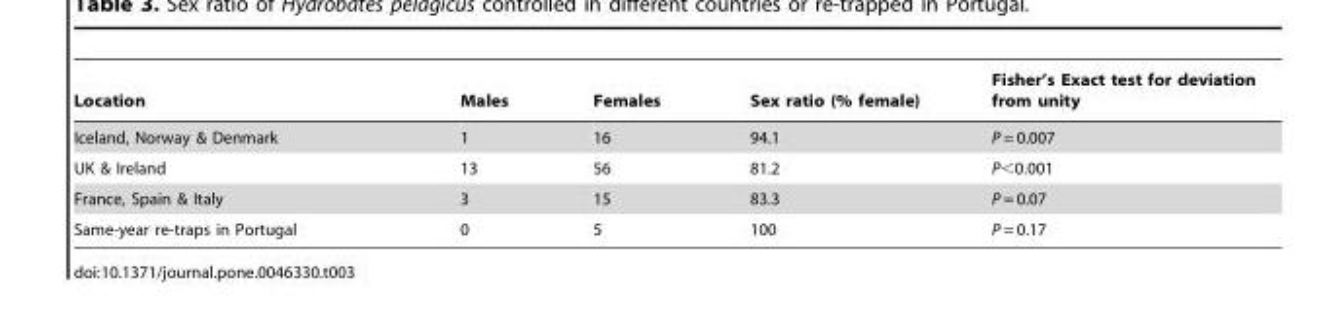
<table><thead><tr><td>Location</td><td>Males</td><td>Females</td><td>Sex ratio (% female)</td><td>Fisher’s Exact test for deviation from unity</td></tr></thead><tbody><tr><td>Iceland, Norway &amp; Denmark</td><td>1</td><td>16</td><td>94.1</td><td>P = 0.007</td></tr><tr><td>UK &amp; Ireland</td><td>13</td><td>56</td><td>81.2</td><td>P&lt;0.001</td></tr><tr><td>France, Spain &amp; Italy</td><td>3</td><td>15</td><td>83.3</td><td>P = 0.07</td></tr><tr><td>Same-year re-traps in Portugal</td><td>0</td><td>5</td><td>100</td><td>P = 0.17</td></tr></tbody></table>